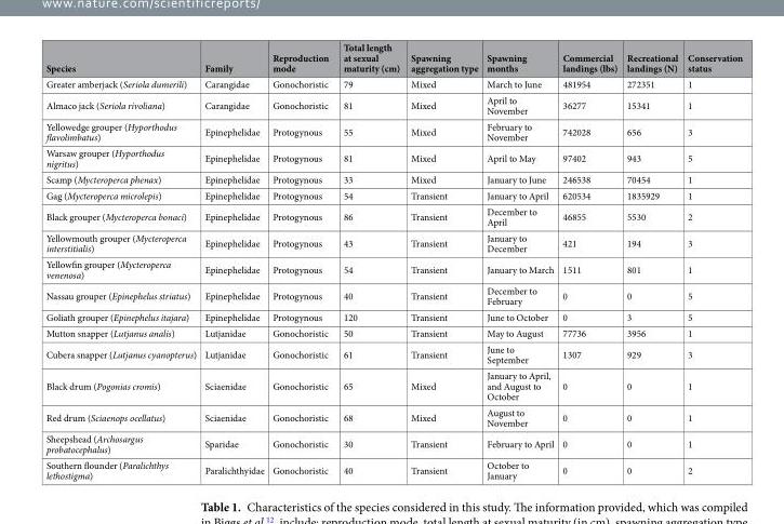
<table><thead><tr><td>Species</td><td>Family</td><td>Reproduction mode</td><td>Total length at sexual maturity (cm)</td><td>Spawning aggregation type</td><td>Spawning months</td><td>Commercial landings (lbs)</td><td>Recreational landings (N)</td><td>Conservation status</td></tr></thead><tbody><tr><td>Greater amberjack (Seriola dumerili)</td><td>Carangidae</td><td>Gonochoristic</td><td>79</td><td>Mixed</td><td>March to June</td><td>481954</td><td>272351</td><td>1</td></tr><tr><td>Almaco jack (Seriola rivoliana)</td><td>Carangidae</td><td>Gonochoristic</td><td>81</td><td>Mixed</td><td>April to November</td><td>36277</td><td>15341</td><td>1</td></tr><tr><td>Yellowedge grouper (Hyporthodus flavolimbatus)</td><td>Epinephelidae</td><td>Protogynous</td><td>55</td><td>Mixed</td><td>February to November</td><td>742028</td><td>656</td><td>3</td></tr><tr><td>Warsaw grouper (Hyporthodus nigritus)</td><td>Epinephelidae</td><td>Protogynous</td><td>81</td><td>Mixed</td><td>April to May</td><td>97402</td><td>943</td><td>5</td></tr><tr><td>Scamp (Mycteroperca phenax)</td><td>Epinephelidae</td><td>Protogynous</td><td>33</td><td>Mixed</td><td>January to June</td><td>246538</td><td>70454</td><td>1</td></tr><tr><td>Gag (Mycteroperca microlepis)</td><td>Epinephelidae</td><td>Protogynous</td><td>54</td><td>Transient</td><td>January to April</td><td>620534</td><td>1835929</td><td>1</td></tr><tr><td>Black grouper (Mycteroperca bonaci)</td><td>Epinephelidae</td><td>Protogynous</td><td>86</td><td>Transient</td><td>December to April</td><td>46855</td><td>5530</td><td>2</td></tr><tr><td>Yellowmouth grouper (Mycteroperca interstitialis)</td><td>Epinephelidae</td><td>Protogynous</td><td>43</td><td>Transient</td><td>January to December</td><td>421</td><td>194</td><td>3</td></tr><tr><td>Yellowfin grouper (Mycteroperca venenosa)</td><td>Epinephelidae</td><td>Protogynous</td><td>54</td><td>Transient</td><td>January to March</td><td>1511</td><td>801</td><td>1</td></tr><tr><td>Nassau grouper (Epinephelus striatus)</td><td>Epinephelidae</td><td>Protogynous</td><td>40</td><td>Transient</td><td>December to February</td><td>0</td><td>0</td><td>5</td></tr><tr><td>Goliath grouper (Epinephelus itajara)</td><td>Epinephelidae</td><td>Protogynous</td><td>120</td><td>Transient</td><td>June to October</td><td>0</td><td>3</td><td>5</td></tr><tr><td>Mutton snapper (Lutjanus analis)</td><td>Lutjanidae</td><td>Gonochoristic</td><td>50</td><td>Transient</td><td>May to August</td><td>77736</td><td>3956</td><td>1</td></tr><tr><td>Cubera snapper (Lutjanus cyanopterus)</td><td>Lutjanidae</td><td>Gonochoristic</td><td>61</td><td>Transient</td><td>June to September</td><td>1307</td><td>929</td><td>3</td></tr><tr><td>Black drum (Pogonias cromis)</td><td>Sciaenidae</td><td>Gonochoristic</td><td>65</td><td>Mixed</td><td>January to April, and August to October</td><td>0</td><td>0</td><td>1</td></tr><tr><td>Red drum (Sciaenops ocellatus)</td><td>Sciaenidae</td><td>Gonochoristic</td><td>68</td><td>Mixed</td><td>August to November</td><td>0</td><td>0</td><td>1</td></tr><tr><td>Sheepshead (Archosargus probatocephalus)</td><td>Sparidae</td><td>Gonochoristic</td><td>30</td><td>Transient</td><td>February to April</td><td>0</td><td>0</td><td>1</td></tr><tr><td>Southern flounder (Paralichthys lethostigma)</td><td>Paralichthyidae</td><td>Gonochoristic</td><td>40</td><td>Transient</td><td>October to January</td><td>0</td><td>0</td><td>2</td></tr></tbody></table>